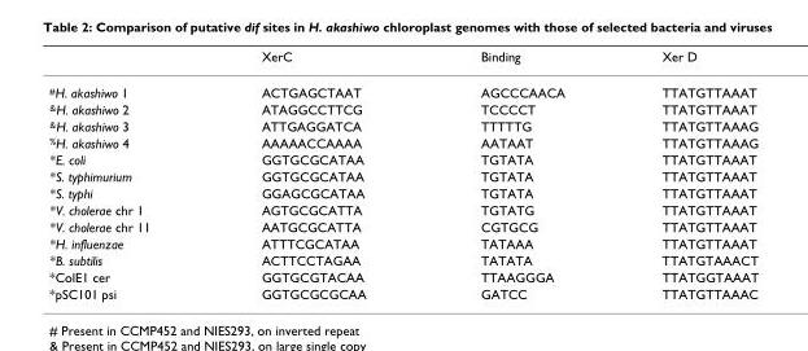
<table><thead><tr><td></td><td>XerC</td><td>Binding</td><td>Xer D</td></tr></thead><tbody><tr><td><sup>#</sup>H. akashiwo 1</td><td>ACTGAGCTAAT</td><td>AGCCCAACA</td><td>TTATGTTAAAT</td></tr><tr><td><sup>&amp;</sup>H. akashiwo 2</td><td>ATAGGCCTTCG</td><td>TCCCCT</td><td>TTATGTTAAAT</td></tr><tr><td><sup>&amp;</sup>H. akashiwo 3</td><td>ATTGAGGATCA</td><td>TTTTTG</td><td>TTATGTTAAAG</td></tr><tr><td><sup>%</sup>H. akashiwo 4</td><td>AAAAACCAAAA</td><td>AATAAT</td><td>TTATGTTAAAG</td></tr><tr><td>*E. coli</td><td>GGTGCGCATAA</td><td>TGTATA</td><td>TTATGTTAAAT</td></tr><tr><td>*S. typhimurium</td><td>GGTGCGCATAA</td><td>TGTATA</td><td>TTATGTTAAAT</td></tr><tr><td>*S. typhi</td><td>GGAGCGCATAA</td><td>TGTATA</td><td>TTATGTTAAAT</td></tr><tr><td>*V. cholerae chr 1</td><td>AGTGCGCATTA</td><td>TGTATG</td><td>TTATGTTAAAT</td></tr><tr><td>*V. cholerae chr 11</td><td>AATGCGCATTA</td><td>CGTGCG</td><td>TTATGTTAAAT</td></tr><tr><td>*H. influenzae</td><td>ATTTCGCATAA</td><td>TATAAA</td><td>TTATGTTAAAT</td></tr><tr><td>*B. subtilis</td><td>ACTTCCTAGAA</td><td>TATATA</td><td>TTATGTAAACT</td></tr><tr><td>*ColE1 cer</td><td>GGTGCGTACAA</td><td>TTAAGGGA</td><td>TTATGGTAAAT</td></tr><tr><td>*pSC101 psi</td><td>GGTGCGCGCAA</td><td>GATCC</td><td>TTATGTTAAAC</td></tr></tbody></table>